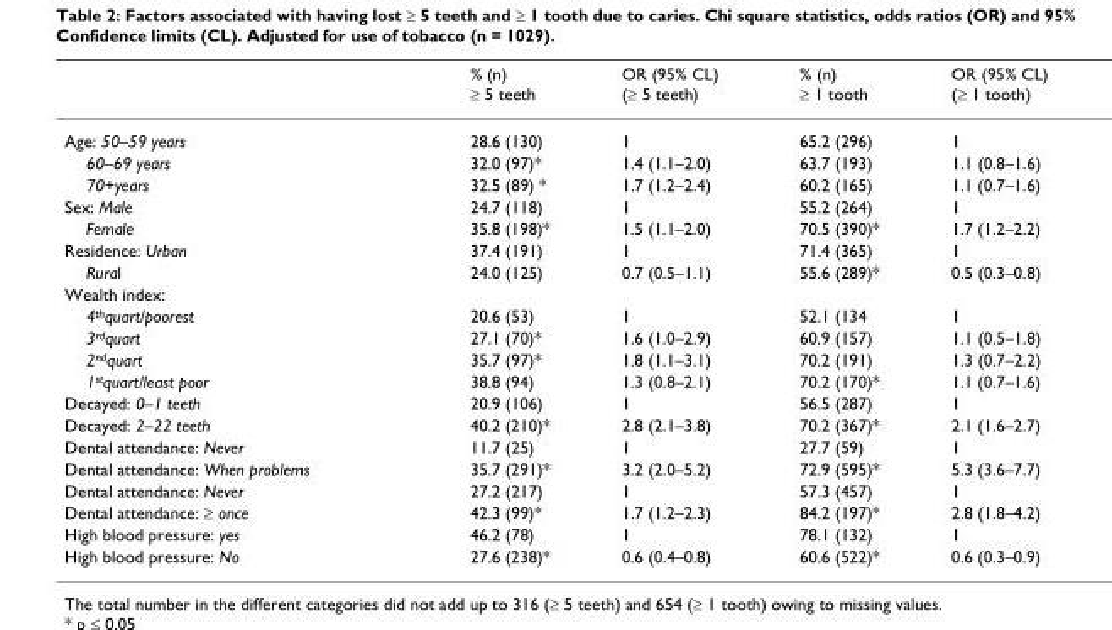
<table><thead><tr><td></td><td>% (n) ≥ 5 teeth</td><td>OR (95% CL) (≥ 5 teeth)</td><td>% (n) ≥ 1 tooth</td><td>OR (95% CL) (≥ 1 tooth)</td></tr></thead><tbody><tr><td>Age: 50–59 years</td><td>28.6 (130)</td><td>1</td><td>65.2 (296)</td><td>1</td></tr><tr><td>60–69 years</td><td>32.0 (97)*</td><td>1.4 (1.1–2.0)</td><td>63.7 (193)</td><td>1.1 (0.8–1.6)</td></tr><tr><td>70+years</td><td>32.5 (89) *</td><td>1.7 (1.2–2.4)</td><td>60.2 (165)</td><td>1.1 (0.7–1.6)</td></tr><tr><td>Sex: Male</td><td>24.7 (118)</td><td>1</td><td>55.2 (264)</td><td>1</td></tr><tr><td>Female</td><td>35.8 (198)*</td><td>1.5 (1.1–2.0)</td><td>70.5 (390)*</td><td>1.7 (1.2–2.2)</td></tr><tr><td>Residence: Urban</td><td>37.4 (191)</td><td>1</td><td>71.4 (365)</td><td>1</td></tr><tr><td>Rural</td><td>24.0 (125)</td><td>0.7 (0.5–1.1)</td><td>55.6 (289)*</td><td>0.5 (0.3–0.8)</td></tr><tr><td colspan="5">Wealth index:</td></tr><tr><td>4<sup>th</sup>quart/poorest</td><td>20.6 (53)</td><td>1</td><td>52.1 (134</td><td>1</td></tr><tr><td>3<sup>rd</sup>quart</td><td>27.1 (70)*</td><td>1.6 (1.0–2.9)</td><td>60.9 (157)</td><td>1.1 (0.5–1.8)</td></tr><tr><td>2<sup>nd</sup>quart</td><td>35.7 (97)*</td><td>1.8 (1.1–3.1)</td><td>70.2 (191)</td><td>1.3 (0.7–2.2)</td></tr><tr><td>1<sup>st</sup>quart/least poor</td><td>38.8 (94)</td><td>1.3 (0.8–2.1)</td><td>70.2 (170)*</td><td>1.1 (0.7–1.6)</td></tr><tr><td>Decayed: 0–1 teeth</td><td>20.9 (106)</td><td>1</td><td>56.5 (287)</td><td>1</td></tr><tr><td>Decayed: 2–22 teeth</td><td>40.2 (210)*</td><td>2.8 (2.1–3.8)</td><td>70.2 (367)*</td><td>2.1 (1.6–2.7)</td></tr><tr><td>Dental attendance: Never</td><td>11.7 (25)</td><td>1</td><td>27.7 (59)</td><td>1</td></tr><tr><td>Dental attendance: When problems</td><td>35.7 (291)*</td><td>3.2 (2.0–5.2)</td><td>72.9 (595)*</td><td>5.3 (3.6–7.7)</td></tr><tr><td>Dental attendance: Never</td><td>27.2 (217)</td><td>1</td><td>57.3 (457)</td><td>1</td></tr><tr><td>Dental attendance: ≥ once</td><td>42.3 (99)*</td><td>1.7 (1.2–2.3)</td><td>84.2 (197)*</td><td>2.8 (1.8–4.2)</td></tr><tr><td>High blood pressure: yes</td><td>46.2 (78)</td><td>1</td><td>78.1 (132)</td><td>1</td></tr><tr><td>High blood pressure: No</td><td>27.6 (238)*</td><td>0.6 (0.4–0.8)</td><td>60.6 (522)*</td><td>0.6 (0.3–0.9)</td></tr></tbody></table>